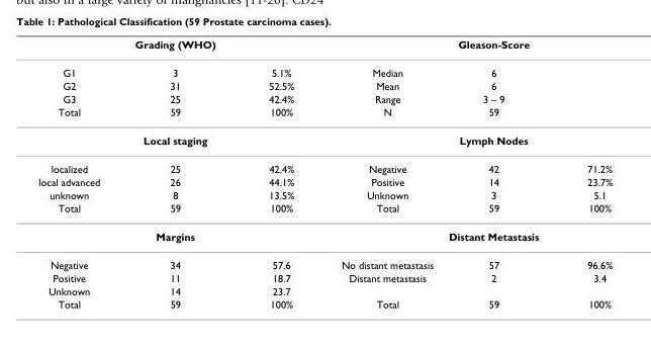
<table><thead><tr><td colspan="3">Grading (WHO)</td><td colspan="3">Gleason-Score</td></tr><tr><td>G1</td><td>3</td><td>5.1%</td><td>Median</td><td>6</td><td></td></tr></thead><tbody><tr><td>G2</td><td>31</td><td>52.5%</td><td>Mean</td><td>6</td><td></td></tr><tr><td>G3</td><td>25</td><td>42.4%</td><td>Range</td><td>3 – 9</td><td></td></tr><tr><td>Total</td><td>59</td><td>100%</td><td>N</td><td>59</td><td></td></tr><tr><td colspan="3">Local staging</td><td colspan="3">Lymph Nodes</td></tr><tr><td>localized</td><td>25</td><td>42.4%</td><td>Negative</td><td>42</td><td>71.2%</td></tr><tr><td>local advanced</td><td>26</td><td>44.1%</td><td>Positive</td><td>14</td><td>23.7%</td></tr><tr><td>unknown</td><td>8</td><td>13.5%</td><td>Unknown</td><td>3</td><td>5.1</td></tr><tr><td>Total</td><td>59</td><td>100%</td><td>Total</td><td>59</td><td>100%</td></tr><tr><td colspan="3">Margins</td><td colspan="3">Distant Metastasis</td></tr><tr><td>Negative</td><td>34</td><td>57.6</td><td>No distant metastasis</td><td>57</td><td>96.6%</td></tr><tr><td>Positive</td><td>11</td><td>18.7</td><td>Distant metastasis</td><td>2</td><td>3.4</td></tr><tr><td>Unknown</td><td>14</td><td>23.7</td><td></td><td></td><td></td></tr><tr><td>Total</td><td>59</td><td>100%</td><td>Total</td><td>59</td><td>100%</td></tr></tbody></table>